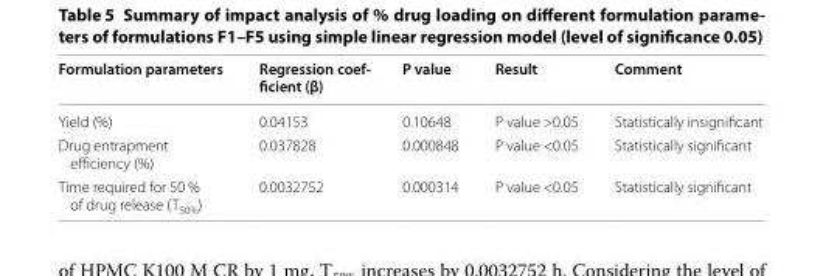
<table><thead><tr><td>Formulation parameters</td><td>Regression coef- ficient (β)</td><td>P value</td><td>Result</td><td>Comment</td></tr></thead><tbody><tr><td>Yield (%)</td><td>0.04153</td><td>0.10648</td><td>P value &gt;0.05</td><td>Statistically insignificant</td></tr><tr><td>Drug entrapment efficiency (%)</td><td>0.037828</td><td>0.000848</td><td>P value &lt;0.05</td><td>Statistically significant</td></tr><tr><td>Time required for 50 % of drug release (T<sub>50%</sub>)</td><td>0.0032752</td><td>0.000314</td><td>P value &lt;0.05</td><td>Statistically significant</td></tr></tbody></table>